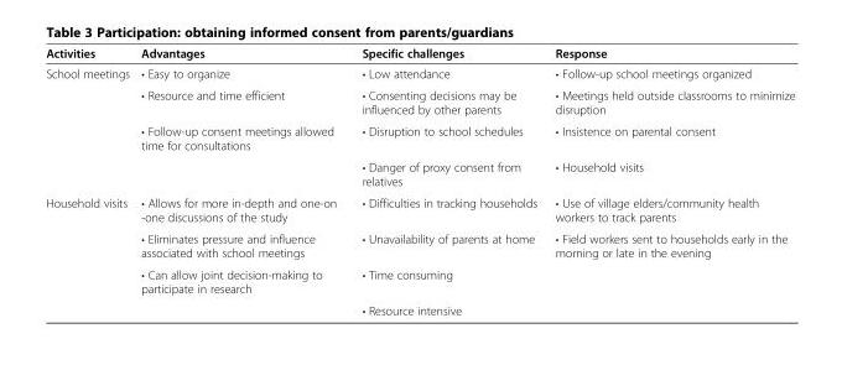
<table><thead><tr><td>Activities</td><td>Advantages</td><td>Specific challenges</td><td>Response</td></tr></thead><tbody><tr><td rowspan="4">School meetings</td><td>• Easy to organize</td><td>• Low attendance</td><td>• Follow-up school meetings organized</td></tr><tr><td>• Resource and time efficient</td><td>• Consenting decisions may be influenced by other parents</td><td>• Meetings held outside classrooms to minimize disruption</td></tr><tr><td>• Follow-up consent meetings allowed time for consultations</td><td>• Disruption to school schedules</td><td>• Insistence on parental consent</td></tr><tr><td></td><td>• Danger of proxy consent from relatives</td><td>• Household visits</td></tr><tr><td rowspan="4">Household visits</td><td>• Allows for more in-depth and one-on -one discussions of the study</td><td>• Difficulties in tracking households</td><td>• Use of village elders/community health workers to track parents</td></tr><tr><td>• Eliminates pressure and influence associated with school meetings</td><td>• Unavailability of parents at home</td><td>• Field workers sent to households early in the morning or late in the evening</td></tr><tr><td>• Can allow joint decision-making to participate in research</td><td>• Time consuming</td><td></td></tr><tr><td></td><td>• Resource intensive</td><td></td></tr></tbody></table>